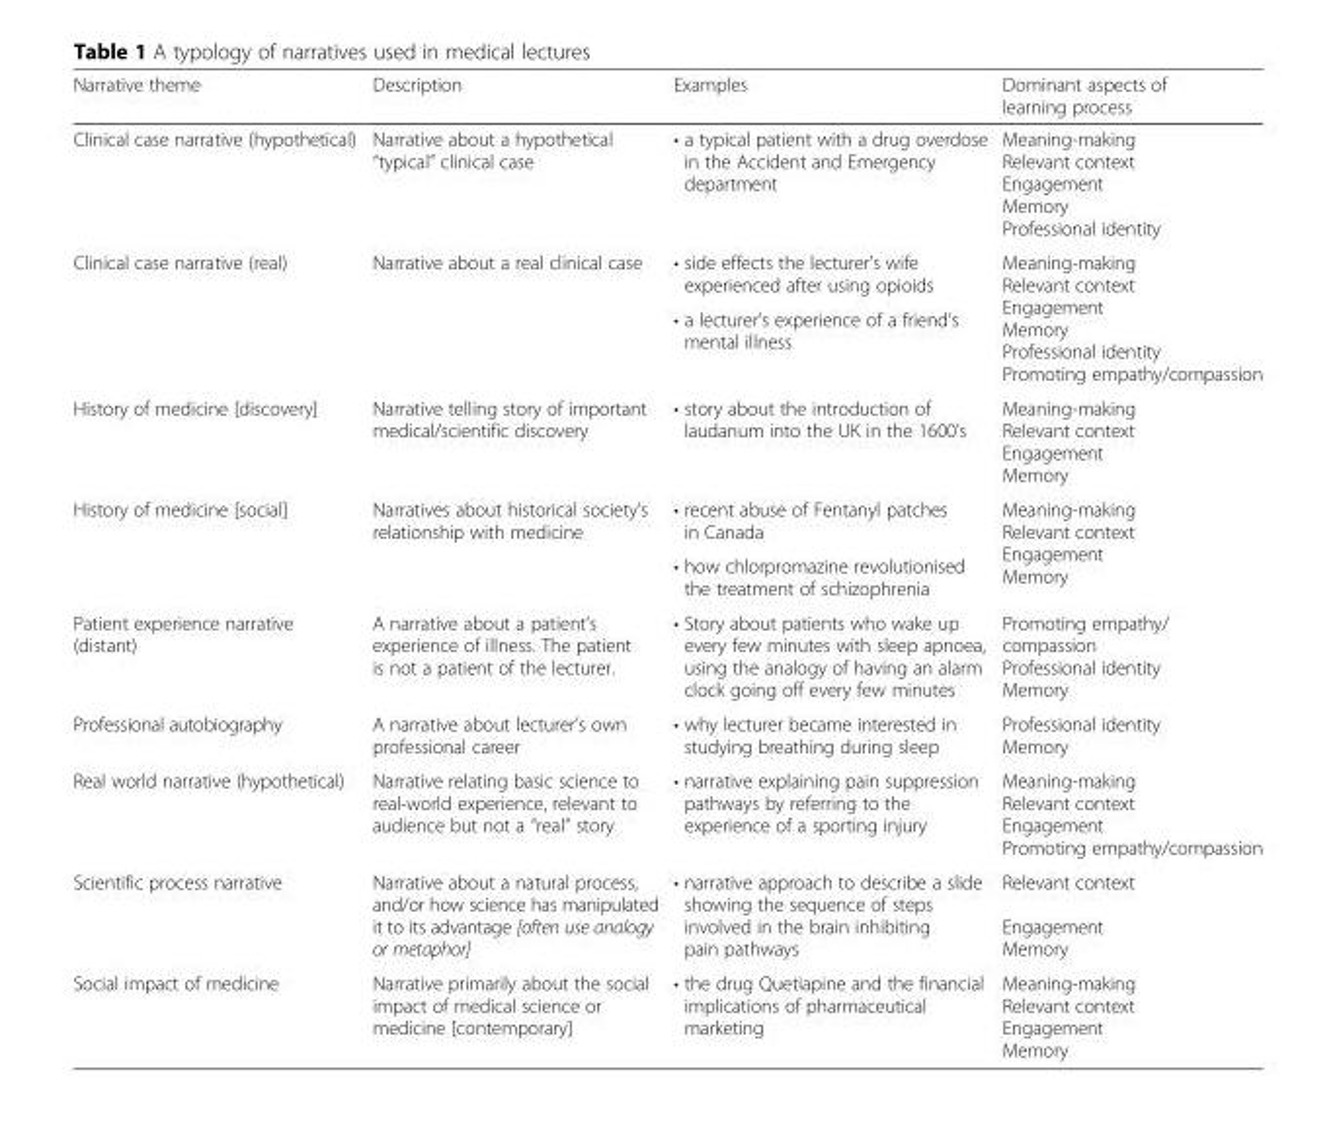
<table><thead><tr><td>Narrative theme</td><td>Description</td><td>Examples</td><td>Dominant aspects of learning process</td></tr></thead><tbody><tr><td>Clinical case narrative (hypothetical)</td><td>Narrative about a hypothetical “typical” clinical case</td><td>• a typical patient with a drug overdose in the Accident and Emergency department</td><td>Meaning-making Relevant context Engagement Memory Professional identity</td></tr><tr><td rowspan="2">Clinical case narrative (real)</td><td rowspan="2">Narrative about a real clinical case</td><td>• side effects the lecturer’s wife experienced after using opioids</td><td rowspan="2">Meaning-making Relevant context Engagement Memory Professional identity Promoting empathy/compassion</td></tr><tr><td>• a lecturer’s experience of a friend’s mental illness</td></tr><tr><td>History of medicine [discovery]</td><td>Narrative telling story of important medical/scientific discovery</td><td>• story about the introduction of laudanum into the UK in the 1600’s</td><td>Meaning-making Relevant context Engagement Memory</td></tr><tr><td rowspan="2">History of medicine [social]</td><td rowspan="2">Narratives about historical society’s relationship with medicine</td><td>• recent abuse of Fentanyl patches in Canada</td><td rowspan="2">Meaning-making Relevant context Engagement Memory</td></tr><tr><td>• how chlorpromazine revolutionised the treatment of schizophrenia</td></tr><tr><td>Patient experience narrative (distant)</td><td>A narrative about a patient’s experience of illness. The patient is not a patient of the lecturer.</td><td>• Story about patients who wake up every few minutes with sleep apnoea, using the analogy of having an alarm clock going off every few minutes</td><td>Promoting empathy/ compassion Professional identity Memory</td></tr><tr><td>Professional autobiography</td><td>A narrative about lecturer’s own professional career</td><td>• why lecturer became interested in studying breathing during sleep</td><td>Professional identity Memory</td></tr><tr><td>Real world narrative (hypothetical)</td><td>Narrative relating basic science to real-world experience, relevant to audience but not a “real” story</td><td>• narrative explaining pain suppression pathways by referring to the experience of a sporting injury</td><td>Meaning-making Relevant context Engagement Promoting empathy/compassion</td></tr><tr><td>Scientific process narrative</td><td>Narrative about a natural process, and/or how science has manipulated it to its advantage [often use analogy or metaphor]</td><td>• narrative approach to describe a slide showing the sequence of steps involved in the brain inhibiting pain pathways</td><td>Relevant context Engagement Memory</td></tr><tr><td>Social impact of medicine</td><td>Narrative primarily about the social impact of medical science or medicine [contemporary]</td><td>• the drug Quetiapine and the financial implications of pharmaceutical marketing</td><td>Meaning-making Relevant context Engagement Memory</td></tr></tbody></table>